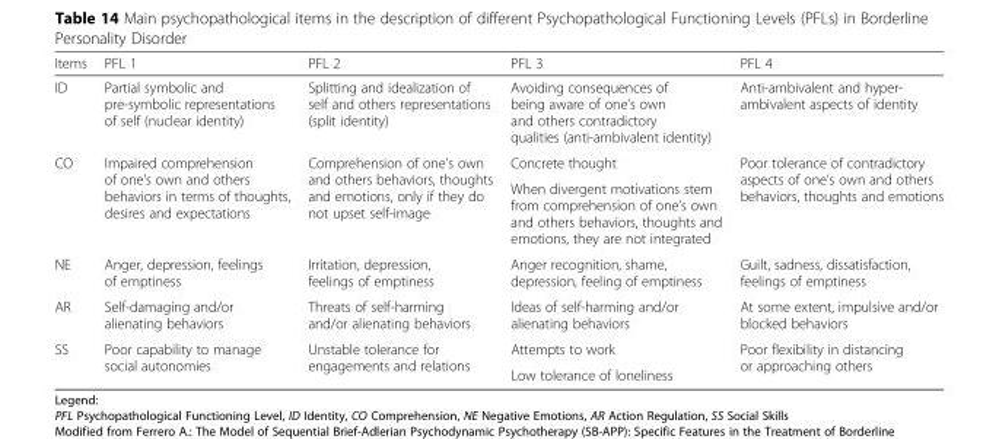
<table><thead><tr><td>Items</td><td>PFL 1</td><td>PFL 2</td><td>PFL 3</td><td>PFL 4</td></tr></thead><tbody><tr><td>ID</td><td>Partial symbolic and pre-symbolic representations of self (nuclear identity)</td><td>Splitting and idealization of self and others representations (split identity)</td><td>Avoiding consequences of being aware of one’s own and others contradictory qualities (anti-ambivalent identity)</td><td>Anti-ambivalent and hyper- ambivalent aspects of identity</td></tr><tr><td rowspan="2">CO</td><td rowspan="2">Impaired comprehension of one’s own and others behaviors in terms of thoughts, desires and expectations</td><td rowspan="2">Comprehension of one’s own and others behaviors, thoughts and emotions, only if they do not upset self-image</td><td>Concrete thought</td><td rowspan="2">Poor tolerance of contradictory aspects of one’s own and others behaviors, thoughts and emotions</td></tr><tr><td>When divergent motivations stem from comprehension of one’s own and others behaviors, thoughts and emotions, they are not integrated</td></tr><tr><td>NE</td><td>Anger, depression, feelings of emptiness</td><td>Irritation, depression, feelings of emptiness</td><td>Anger recognition, shame, depression, feeling of emptiness</td><td>Guilt, sadness, dissatisfaction, feelings of emptiness</td></tr><tr><td>AR</td><td>Self-damaging and/or alienating behaviors</td><td>Threats of self-harming and/or alienating behaviors</td><td>Ideas of self-harming and/or alienating behaviors</td><td>At some extent, impulsive and/or blocked behaviors</td></tr><tr><td rowspan="2">SS</td><td rowspan="2">Poor capability to manage social autonomies</td><td rowspan="2">Unstable tolerance for engagements and relations</td><td>Attempts to work</td><td rowspan="2">Poor flexibility in distancing or approaching others</td></tr><tr><td>Low tolerance of loneliness</td></tr></tbody></table>